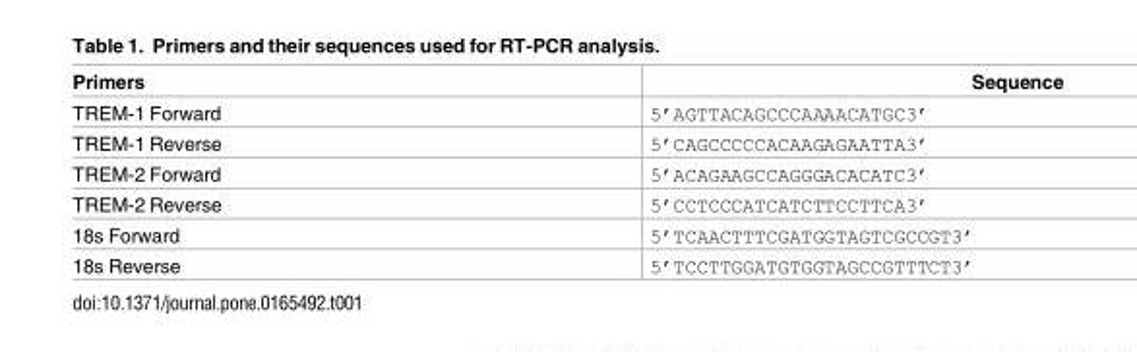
<table><thead><tr><td>Primers</td><td>Sequence</td></tr></thead><tbody><tr><td>TREM-1 Forward</td><td>5’AGTTACAGCCCAAAACATGC3’</td></tr><tr><td>TREM-1 Reverse</td><td>5’CAGCCCCCACAAGAGAATTA3’</td></tr><tr><td>TREM-2 Forward</td><td>5’ACAGAAGCCAGGGACACATC3’</td></tr><tr><td>TREM-2 Reverse</td><td>5’CCTCCCATCATCTTCCTTCA3’</td></tr><tr><td>18s Forward</td><td>5’TCAACTTTCGATGGTAGTCGCCGT3’</td></tr><tr><td>18s Reverse</td><td>5’TCCTTGGATGTGGTAGCCGTTTCT3’</td></tr></tbody></table>